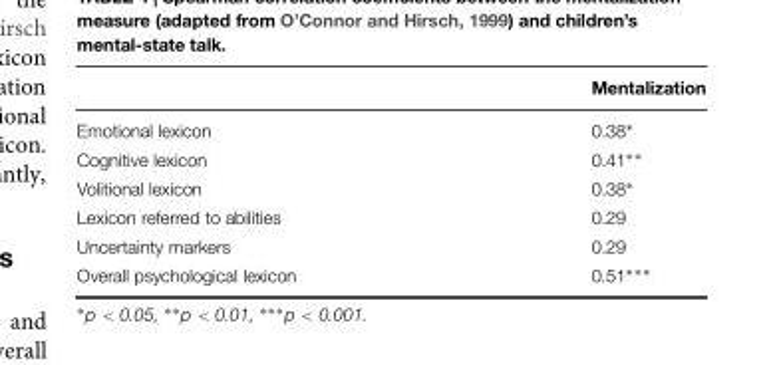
<table><thead><tr><td></td><td>Mentalization</td></tr></thead><tbody><tr><td>Emotional lexicon</td><td>0.38∗</td></tr><tr><td>Cognitive lexicon</td><td>0.41∗∗</td></tr><tr><td>Volitional lexicon</td><td>0.38∗</td></tr><tr><td>Lexicon referred to abilities</td><td>0.29</td></tr><tr><td>Uncertainty markers</td><td>0.29</td></tr><tr><td>Overall psychological lexicon</td><td>0.51∗∗∗</td></tr></tbody></table>